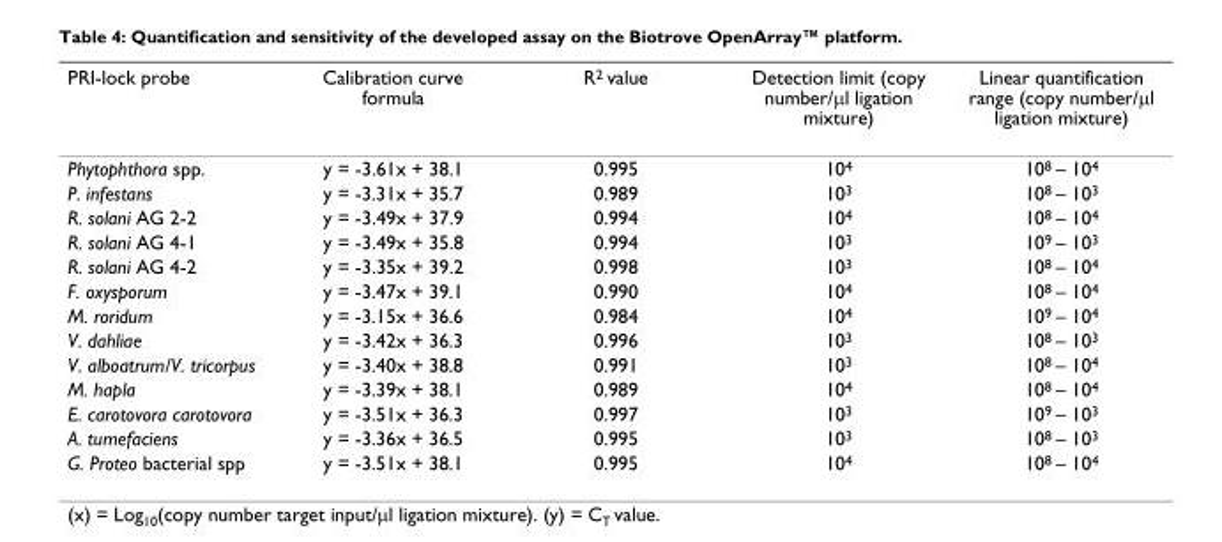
<table><thead><tr><td>PRI-lock probe</td><td>Calibration curve formula</td><td>R<sup>2</sup> value</td><td>Detection limit (copy number/μl ligation mixture)</td><td>Linear quantification range (copy number/μl ligation mixture)</td></tr></thead><tbody><tr><td>Phytophthora spp.</td><td>y = -3.61x + 38.1</td><td>0.995</td><td>10<sup>4</sup></td><td>10<sup>8</sup> – 10<sup>4</sup></td></tr><tr><td>P. infestans</td><td>y = -3.31x + 35.7</td><td>0.989</td><td>10<sup>3</sup></td><td>10<sup>8</sup> – 10<sup>3</sup></td></tr><tr><td>R. solani AG 2-2</td><td>y = -3.49x + 37.9</td><td>0.994</td><td>10<sup>4</sup></td><td>10<sup>8</sup> – 10<sup>4</sup></td></tr><tr><td>R. solani AG 4-1</td><td>y = -3.49x + 35.8</td><td>0.994</td><td>10<sup>3</sup></td><td>10<sup>9</sup> – 10<sup>3</sup></td></tr><tr><td>R. solani AG 4-2</td><td>y = -3.35x + 39.2</td><td>0.998</td><td>10<sup>3</sup></td><td>10<sup>8</sup> – 10<sup>4</sup></td></tr><tr><td>F. oxysporum</td><td>y = -3.47x + 39.1</td><td>0.990</td><td>10<sup>4</sup></td><td>10<sup>8</sup> – 10<sup>4</sup></td></tr><tr><td>M. roridum</td><td>y = -3.15x + 36.6</td><td>0.984</td><td>10<sup>4</sup></td><td>10<sup>9</sup> – 10<sup>4</sup></td></tr><tr><td>V. dahliae</td><td>y = -3.42x + 36.3</td><td>0.996</td><td>10<sup>3</sup></td><td>10<sup>8</sup> – 10<sup>3</sup></td></tr><tr><td>V. alboatrum/V. tricorpus</td><td>y = -3.40x + 38.8</td><td>0.991</td><td>10<sup>3</sup></td><td>10<sup>8</sup> – 10<sup>4</sup></td></tr><tr><td>M. hapla</td><td>y = -3.39x + 38.1</td><td>0.989</td><td>10<sup>4</sup></td><td>10<sup>8</sup> – 10<sup>4</sup></td></tr><tr><td>E. carotovora carotovora</td><td>y = -3.51x + 36.3</td><td>0.997</td><td>10<sup>3</sup></td><td>10<sup>9</sup> – 10<sup>3</sup></td></tr><tr><td>A. tumefaciens</td><td>y = -3.36x + 36.5</td><td>0.995</td><td>10<sup>3</sup></td><td>10<sup>8</sup> – 10<sup>3</sup></td></tr><tr><td>G. Proteo bacterial spp</td><td>y = -3.51x + 38.1</td><td>0.995</td><td>10<sup>4</sup></td><td>10<sup>8</sup> – 10<sup>4</sup></td></tr></tbody></table>